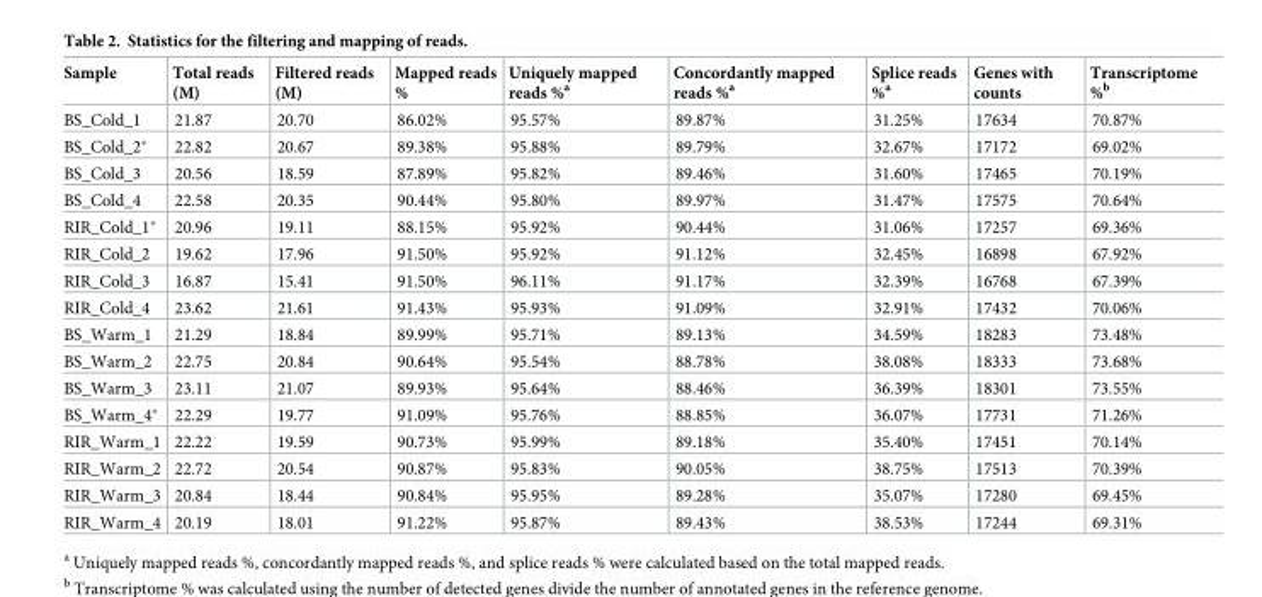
<table><thead><tr><td>Sample</td><td>Total reads (M)</td><td>Filtered reads (M)</td><td>Mapped reads %</td><td>Uniquely mapped reads %<sup>a</sup></td><td>Concordantly mapped reads %<sup>a</sup></td><td>Splice reads %<sup>a</sup></td><td>Genes with counts</td><td>Transcriptome %<sup>b</sup></td></tr></thead><tbody><tr><td>BS_Cold_1</td><td>21.87</td><td>20.70</td><td>86.02%</td><td>95.57%</td><td>89.87%</td><td>31.25%</td><td>17634</td><td>70.87%</td></tr><tr><td>BS_Cold_2*</td><td>22.82</td><td>20.67</td><td>89.38%</td><td>95.88%</td><td>89.79%</td><td>32.67%</td><td>17172</td><td>69.02%</td></tr><tr><td>BS_Cold_3</td><td>20.56</td><td>18.59</td><td>87.89%</td><td>95.82%</td><td>89.46%</td><td>31.60%</td><td>17465</td><td>70.19%</td></tr><tr><td>BS_Cold_4</td><td>22.58</td><td>20.35</td><td>90.44%</td><td>95.80%</td><td>89.97%</td><td>31.47%</td><td>17575</td><td>70.64%</td></tr><tr><td>RIR_Cold_1*</td><td>20.96</td><td>19.11</td><td>88.15%</td><td>95.92%</td><td>90.44%</td><td>31.06%</td><td>17257</td><td>69.36%</td></tr><tr><td>RIR_Cold_2</td><td>19.62</td><td>17.96</td><td>91.50%</td><td>95.92%</td><td>91.12%</td><td>32.45%</td><td>16898</td><td>67.92%</td></tr><tr><td>RIR_Cold_3</td><td>16.87</td><td>15.41</td><td>91.50%</td><td>96.11%</td><td>91.17%</td><td>32.39%</td><td>16768</td><td>67.39%</td></tr><tr><td>RIR_Cold_4</td><td>23.62</td><td>21.61</td><td>91.43%</td><td>95.93%</td><td>91.09%</td><td>32.91%</td><td>17432</td><td>70.06%</td></tr><tr><td>BS_Warm_1</td><td>21.29</td><td>18.84</td><td>89.99%</td><td>95.71%</td><td>89.13%</td><td>34.59%</td><td>18283</td><td>73.48%</td></tr><tr><td>BS_Warm_2</td><td>22.75</td><td>20.84</td><td>90.64%</td><td>95.54%</td><td>88.78%</td><td>38.08%</td><td>18333</td><td>73.68%</td></tr><tr><td>BS_Warm_3</td><td>23.11</td><td>21.07</td><td>89.93%</td><td>95.64%</td><td>88.46%</td><td>36.39%</td><td>18301</td><td>73.55%</td></tr><tr><td>BS_Warm_4*</td><td>22.29</td><td>19.77</td><td>91.09%</td><td>95.76%</td><td>88.85%</td><td>36.07%</td><td>17731</td><td>71.26%</td></tr><tr><td>RIR_Warm_1</td><td>22.22</td><td>19.59</td><td>90.73%</td><td>95.99%</td><td>89.18%</td><td>35.40%</td><td>17451</td><td>70.14%</td></tr><tr><td>RIR_Warm_2</td><td>22.72</td><td>20.54</td><td>90.87%</td><td>95.83%</td><td>90.05%</td><td>38.75%</td><td>17513</td><td>70.39%</td></tr><tr><td>RIR_Warm_3</td><td>20.84</td><td>18.44</td><td>90.84%</td><td>95.95%</td><td>89.28%</td><td>35.07%</td><td>17280</td><td>69.45%</td></tr><tr><td>RIR_Warm_4</td><td>20.19</td><td>18.01</td><td>91.22%</td><td>95.87%</td><td>89.43%</td><td>38.53%</td><td>17244</td><td>69.31%</td></tr></tbody></table>